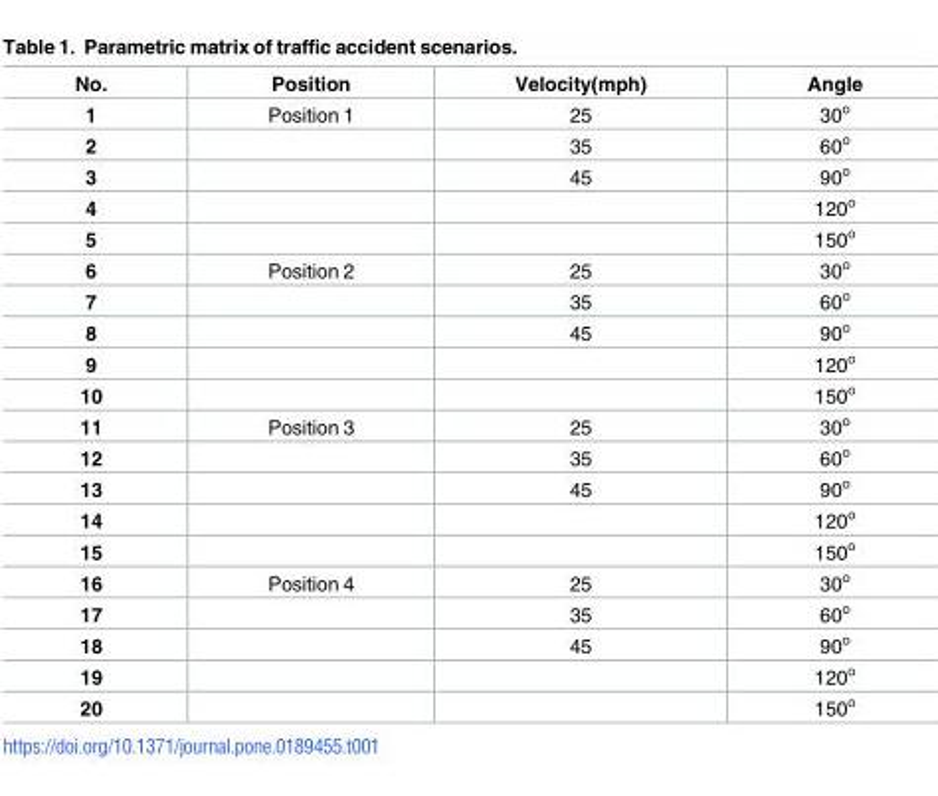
<table><thead><tr><td>No.</td><td>Position</td><td>Velocity(mph)</td><td>Angle</td></tr></thead><tbody><tr><td>1</td><td>Position 1</td><td>25</td><td>30<sup>o</sup></td></tr><tr><td>2</td><td></td><td>35</td><td>60<sup>o</sup></td></tr><tr><td>3</td><td></td><td>45</td><td>90<sup>o</sup></td></tr><tr><td>4</td><td></td><td></td><td>120<sup>o</sup></td></tr><tr><td>5</td><td></td><td></td><td>150<sup>o</sup></td></tr><tr><td>6</td><td>Position 2</td><td>25</td><td>30<sup>o</sup></td></tr><tr><td>7</td><td></td><td>35</td><td>60<sup>o</sup></td></tr><tr><td>8</td><td></td><td>45</td><td>90<sup>o</sup></td></tr><tr><td>9</td><td></td><td></td><td>120<sup>o</sup></td></tr><tr><td>10</td><td></td><td></td><td>150<sup>o</sup></td></tr><tr><td>11</td><td>Position 3</td><td>25</td><td>30<sup>o</sup></td></tr><tr><td>12</td><td></td><td>35</td><td>60<sup>o</sup></td></tr><tr><td>13</td><td></td><td>45</td><td>90<sup>o</sup></td></tr><tr><td>14</td><td></td><td></td><td>120<sup>o</sup></td></tr><tr><td>15</td><td></td><td></td><td>150<sup>o</sup></td></tr><tr><td>16</td><td>Position 4</td><td>25</td><td>30<sup>o</sup></td></tr><tr><td>17</td><td></td><td>35</td><td>60<sup>o</sup></td></tr><tr><td>18</td><td></td><td>45</td><td>90<sup>o</sup></td></tr><tr><td>19</td><td></td><td></td><td>120<sup>o</sup></td></tr><tr><td>20</td><td></td><td></td><td>150<sup>o</sup></td></tr></tbody></table>